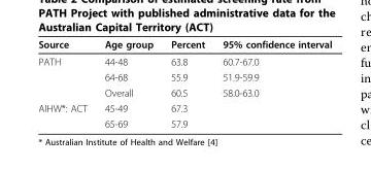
<table><thead><tr><td>Source</td><td>Age group</td><td>Percent</td><td>95% confidence interval</td></tr></thead><tbody><tr><td rowspan="3">PATH</td><td>44-48</td><td>63.8</td><td>60.7-67.0</td></tr><tr><td>64-68</td><td>55.9</td><td>51.9-59.9</td></tr><tr><td>Overall</td><td>60.5</td><td>58.0-63.0</td></tr><tr><td rowspan="2">AIHW*: ACT</td><td>45-49</td><td>67.3</td><td></td></tr><tr><td>65-69</td><td>57.9</td><td></td></tr></tbody></table>